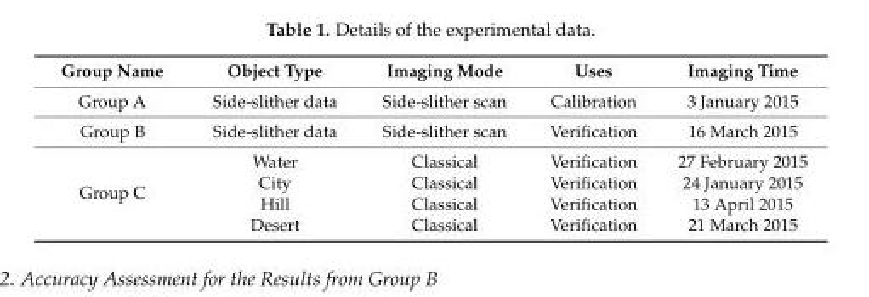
<table><thead><tr><td>Group Name</td><td>Object Type</td><td>Imaging Mode</td><td>Uses</td><td>Imaging Time</td></tr></thead><tbody><tr><td>Group A</td><td>Side-slither data</td><td>Side-slither scan</td><td>Calibration</td><td>3 January 2015</td></tr><tr><td>Group B</td><td>Side-slither data</td><td>Side-slither scan</td><td>Verification</td><td>16 March 2015</td></tr><tr><td rowspan="4">Group C</td><td>Water</td><td>Classical</td><td>Verification</td><td>27 February 2015</td></tr><tr><td>City</td><td>Classical</td><td>Verification</td><td>24 January 2015</td></tr><tr><td>Hill</td><td>Classical</td><td>Verification</td><td>13 April 2015</td></tr><tr><td>Desert</td><td>Classical</td><td>Verification</td><td>21 March 2015</td></tr></tbody></table>